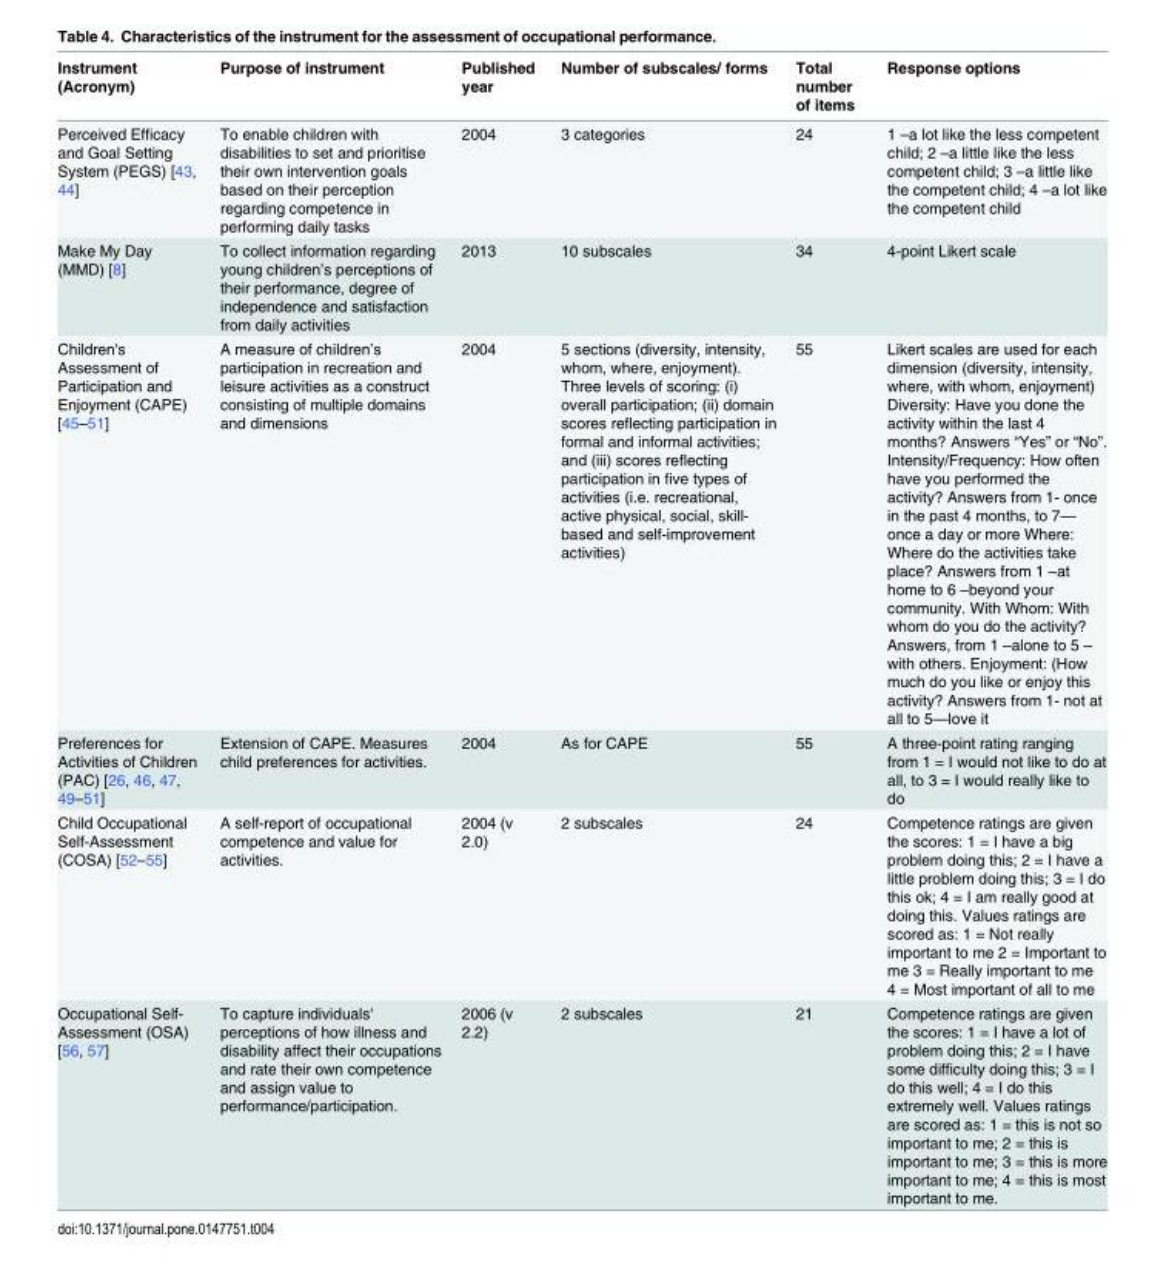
<table><thead><tr><td>Instrument (Acronym)</td><td>Purpose of instrument</td><td>Published year</td><td>Number of subscales/ forms</td><td>Total number of items</td><td>Response options</td></tr></thead><tbody><tr><td>Perceived Efficacy and Goal Setting System (PEGS) [43, 44]</td><td>To enable children with disabilities to set and prioritise their own intervention goals based on their perception regarding competence in performing daily tasks</td><td>2004</td><td>3 categories</td><td>24</td><td>1 –a lot like the less competent child; 2 –a little like the less competent child; 3 –a little like the competent child; 4 –a lot like the competent child</td></tr><tr><td>Make My Day (MMD) [8]</td><td>To collect information regarding young children’s perceptions of their performance, degree of independence and satisfaction from daily activities</td><td>2013</td><td>10 subscales</td><td>34</td><td>4-point Likert scale</td></tr><tr><td>Children&#x27;s Assessment of Participation and Enjoyment (CAPE) [45–51]</td><td>A measure of children’s participation in recreation and leisure activities as a construct consisting of multiple domains and dimensions</td><td>2004</td><td>5 sections (diversity, intensity, whom, where, enjoyment). Three levels of scoring: (i) overall participation; (ii) domain scores reflecting participation in formal and informal activities; and (iii) scores reflecting participation in five types of activities (i.e. recreational, active physical, social, skill- based and self-improvement activities)</td><td>55</td><td>Likert scales are used for each dimension (diversity, intensity, where, with whom, enjoyment) Diversity: Have you done the activity within the last 4 months? Answers “Yes” or “No”. Intensity/Frequency: How often have you performed the activity? Answers from 1- once in the past 4 months, to 7— once a day or more Where: Where do the activities take place? Answers from 1 –at home to 6 –beyond your community. With Whom: With whom do you do the activity? Answers, from 1 –alone to 5 – with others. Enjoyment: (How much do you like or enjoy this activity? Answers from 1- not at all to 5—love it</td></tr><tr><td>Preferences for Activities of Children (PAC) [26, 46, 47, 49–51]</td><td>Extension of CAPE. Measures child preferences for activities.</td><td>2004</td><td>As for CAPE</td><td>55</td><td>A three-point rating ranging from 1 = I would not like to do at all, to 3 = I would really like to do</td></tr><tr><td>Child Occupational Self-Assessment (COSA) [52–55]</td><td>A self-report of occupational competence and value for activities.</td><td>2004 (v 2.0)</td><td>2 subscales</td><td>24</td><td>Competence ratings are given the scores: 1 = I have a big problem doing this; 2 = I have a little problem doing this; 3 = I do this ok; 4 = I am really good at doing this. Values ratings are scored as: 1 = Not really important to me 2 = Important to me 3 = Really important to me 4 = Most important of all to me</td></tr><tr><td>Occupational Self- Assessment (OSA) [56, 57]</td><td>To capture individuals&#x27; perceptions of how illness and disability affect their occupations and rate their own competence and assign value to performance/participation.</td><td>2006 (v 2.2)</td><td>2 subscales</td><td>21</td><td>Competence ratings are given the scores: 1 = I have a lot of problem doing this; 2 = I have some difficulty doing this; 3 = I do this well; 4 = I do this extremely well. Values ratings are scored as: 1 = this is not so important to me; 2 = this is important to me; 3 = this is more important to me; 4 = this is most important to me.</td></tr></tbody></table>